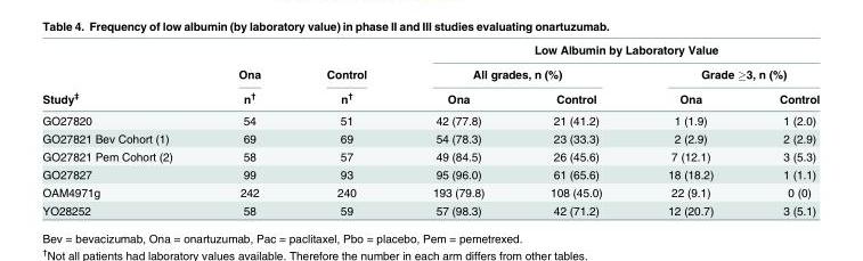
<table><thead><tr><td rowspan="3">Study<sup>‡</sup></td><td rowspan="3">Ona n†</td><td rowspan="3">Control n†</td><td colspan="4">Low Albumin by Laboratory Value</td></tr><tr><td colspan="2">All grades, n (%)</td><td colspan="2">Grade ≥3, n (%)</td></tr><tr><td>Ona</td><td>Control</td><td>Ona</td><td>Control</td></tr></thead><tbody><tr><td>GO27820</td><td>54</td><td>51</td><td>42 (77.8)</td><td>21 (41.2)</td><td>1 (1.9)</td><td>1 (2.0)</td></tr><tr><td>GO27821 Bev Cohort (1)</td><td>69</td><td>69</td><td>54 (78.3)</td><td>23 (33.3)</td><td>2 (2.9)</td><td>2 (2.9)</td></tr><tr><td>GO27821 Pem Cohort (2)</td><td>58</td><td>57</td><td>49 (84.5)</td><td>26 (45.6)</td><td>7 (12.1)</td><td>3 (5.3)</td></tr><tr><td>GO27827</td><td>99</td><td>93</td><td>95 (96.0)</td><td>61 (65.6)</td><td>18 (18.2)</td><td>1 (1.1)</td></tr><tr><td>OAM4971g</td><td>242</td><td>240</td><td>193 (79.8)</td><td>108 (45.0)</td><td>22 (9.1)</td><td>0 (0)</td></tr><tr><td>YO28252</td><td>58</td><td>59</td><td>57 (98.3)</td><td>42 (71.2)</td><td>12 (20.7)</td><td>3 (5.1)</td></tr></tbody></table>